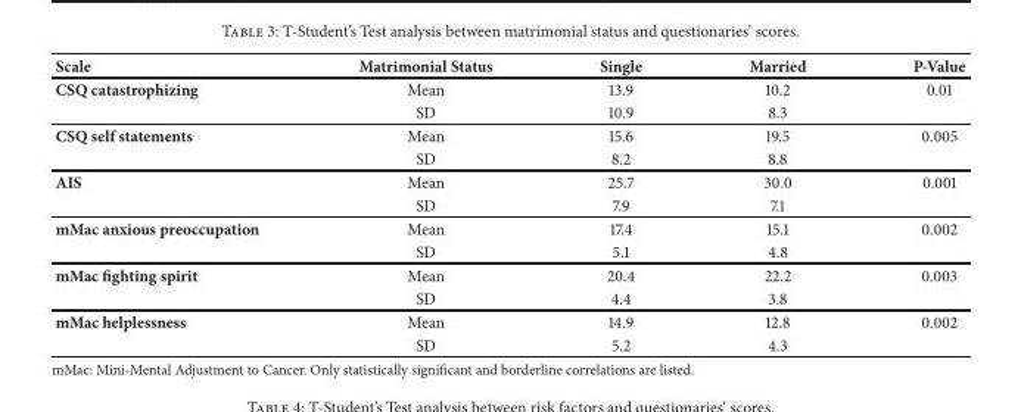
<table><thead><tr><td>Scale</td><td>Matrimonial Status</td><td>Single</td><td>Married</td><td>P-Value</td></tr></thead><tbody><tr><td rowspan="2">CSQ catastrophizing</td><td>Mean</td><td>13.9</td><td>10.2</td><td>0.01</td></tr><tr><td>SD</td><td>10.9</td><td>8.3</td><td></td></tr><tr><td rowspan="2">CSQ self statements</td><td>Mean</td><td>15.6</td><td>19.5</td><td>0.005</td></tr><tr><td>SD</td><td>8.2</td><td>8.8</td><td></td></tr><tr><td rowspan="2">AIS</td><td>Mean</td><td>25.7</td><td>30.0</td><td>0.001</td></tr><tr><td>SD</td><td>7.9</td><td>7.1</td><td></td></tr><tr><td rowspan="2">mMac anxious preoccupation</td><td>Mean</td><td>17.4</td><td>15.1</td><td>0.002</td></tr><tr><td>SD</td><td>5.1</td><td>4.8</td><td></td></tr><tr><td rowspan="2">mMac fighting spirit</td><td>Mean</td><td>20.4</td><td>22.2</td><td>0.003</td></tr><tr><td>SD</td><td>4.4</td><td>3.8</td><td></td></tr><tr><td rowspan="2">mMac helplessness</td><td>Mean</td><td>14.9</td><td>12.8</td><td>0.002</td></tr><tr><td>SD</td><td>5.2</td><td>4.3</td><td></td></tr></tbody></table>